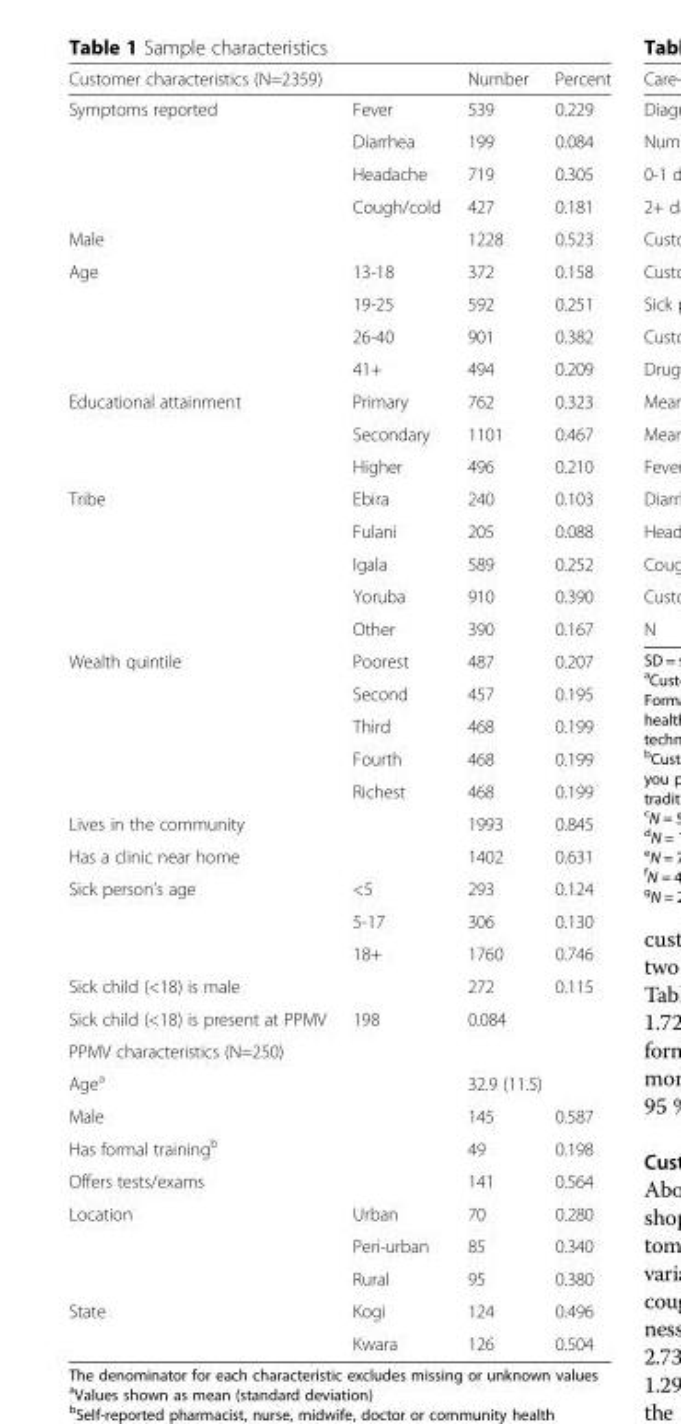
<table><thead><tr><td>Customer characteristics (N=2359)</td><td></td><td>Number</td><td>Percent</td></tr></thead><tbody><tr><td rowspan="4">Symptoms reported</td><td>Fever</td><td>539</td><td>0.229</td></tr><tr><td>Diarrhea</td><td>199</td><td>0.084</td></tr><tr><td>Headache</td><td>719</td><td>0.305</td></tr><tr><td>Cough/cold</td><td>427</td><td>0.181</td></tr><tr><td>Male</td><td></td><td>1228</td><td>0.523</td></tr><tr><td rowspan="4">Age</td><td>13-18</td><td>372</td><td>0.158</td></tr><tr><td>19-25</td><td>592</td><td>0.251</td></tr><tr><td>26-40</td><td>901</td><td>0.382</td></tr><tr><td>41+</td><td>494</td><td>0.209</td></tr><tr><td rowspan="3">Educational attainment</td><td>Primary</td><td>762</td><td>0.323</td></tr><tr><td>Secondary</td><td>1101</td><td>0.467</td></tr><tr><td>Higher</td><td>496</td><td>0.210</td></tr><tr><td rowspan="5">Tribe</td><td>Ebira</td><td>240</td><td>0.103</td></tr><tr><td>Fulani</td><td>205</td><td>0.088</td></tr><tr><td>Igala</td><td>589</td><td>0.252</td></tr><tr><td>Yoruba</td><td>910</td><td>0.390</td></tr><tr><td>Other</td><td>390</td><td>0.167</td></tr><tr><td rowspan="5">Wealth quintile</td><td>Poorest</td><td>487</td><td>0.207</td></tr><tr><td>Second</td><td>457</td><td>0.195</td></tr><tr><td>Third</td><td>468</td><td>0.199</td></tr><tr><td>Fourth</td><td>468</td><td>0.199</td></tr><tr><td>Richest</td><td>468</td><td>0.199</td></tr><tr><td>Lives in the community</td><td></td><td>1993</td><td>0.845</td></tr><tr><td>Has a clinic near home</td><td></td><td>1402</td><td>0.631</td></tr><tr><td rowspan="3">Sick person’s age</td><td>&lt;5</td><td>293</td><td>0.124</td></tr><tr><td>5-17</td><td>306</td><td>0.130</td></tr><tr><td>18+</td><td>1760</td><td>0.746</td></tr><tr><td>Sick child (&lt;18) is male</td><td></td><td>272</td><td>0.115</td></tr><tr><td>Sick child (&lt;18) is present at PPMV</td><td>198</td><td>0.084</td><td></td></tr><tr><td colspan="4">PPMV characteristics (N=250)</td></tr><tr><td>Age<sup>a</sup></td><td></td><td colspan="2">32.9 (11.5)</td></tr><tr><td>Male</td><td></td><td>145</td><td>0.587</td></tr><tr><td>Has formal training<sup>b</sup></td><td></td><td>49</td><td>0.198</td></tr><tr><td>Offers tests/exams</td><td></td><td>141</td><td>0.564</td></tr><tr><td rowspan="3">Location</td><td>Urban</td><td>70</td><td>0.280</td></tr><tr><td>Peri-urban</td><td>85</td><td>0.340</td></tr><tr><td>Rural</td><td>95</td><td>0.380</td></tr><tr><td rowspan="2">State</td><td>Kogi</td><td>124</td><td>0.496</td></tr><tr><td>Kwara</td><td>126</td><td>0.504</td></tr></tbody></table>